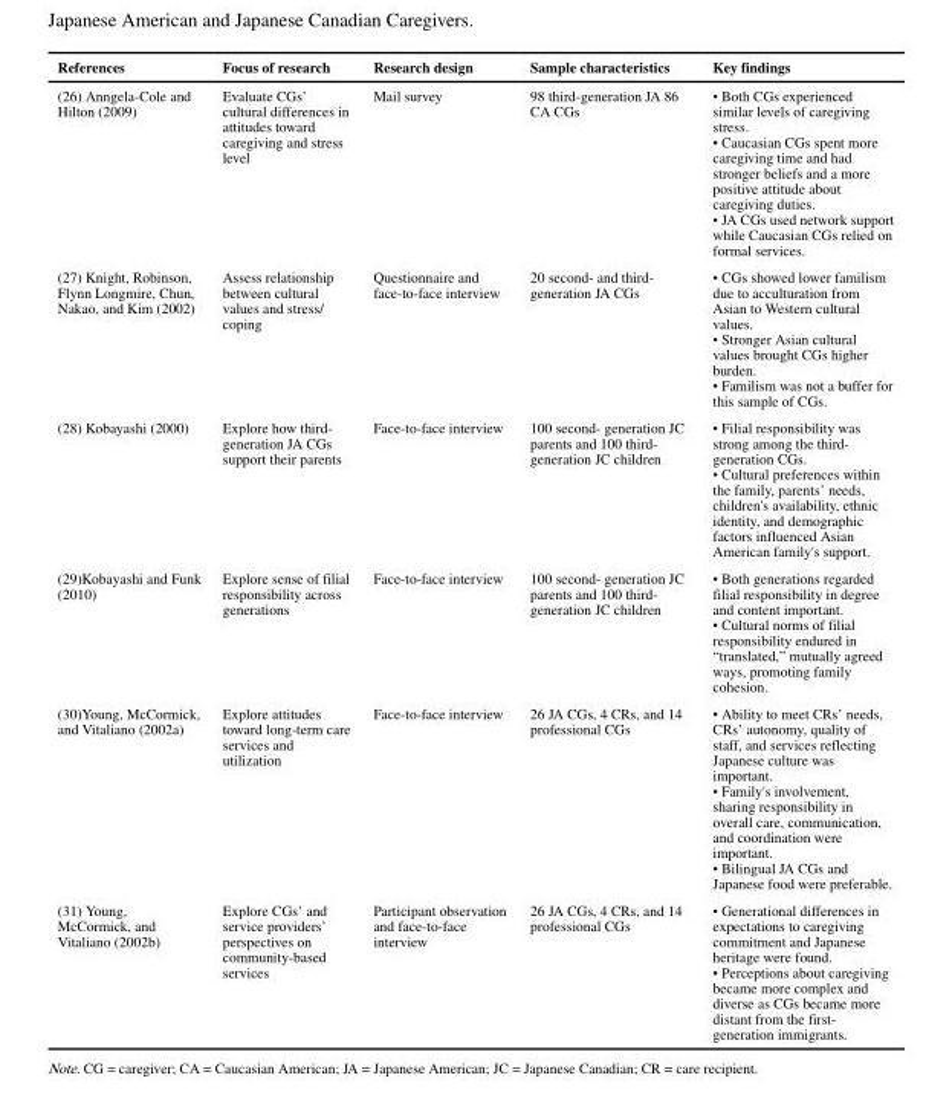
<table><thead><tr><td>References</td><td>Focus of research</td><td>Research design</td><td>Sample characteristics</td><td>Key findings</td></tr></thead><tbody><tr><td>(26) Anngela-Cole and Hilton (2009)</td><td>Evaluate CGs’ cultural differences in attitudes toward caregiving and stress level</td><td>Mail survey</td><td>98 third-generation JA 86 CA CGs</td><td>• Both CGs experienced similar levels of caregiving stress. • Caucasian CGs spent more caregiving time and had stronger beliefs and a more positive attitude about caregiving duties. • JA CGs used network support while Caucasian CGs relied on formal services.</td></tr><tr><td>(27) Knight, Robinson, Flynn Longmire, Chun, Nakao, and Kim (2002)</td><td>Assess relationship between cultural values and stress/ coping</td><td>Questionnaire and face-to-face interview</td><td>20 second- and third- generation JA CGs</td><td>• CGs showed lower familism due to acculturation from Asian to Western cultural values. • Stronger Asian cultural values brought CGs higher burden. • Familism was not a buffer for this sample of CGs.</td></tr><tr><td>(28) Kobayashi (2000)</td><td>Explore how third- generation JA CGs support their parents</td><td>Face-to-face interview</td><td>100 second- generation JC parents and 100 third- generation JC children</td><td>• Filial responsibility was strong among the third- generation CGs. • Cultural preferences within the family, parents’ needs, children&#x27;s availability, ethnic identity, and demographic factors influenced Asian American family&#x27;s support.</td></tr><tr><td>(29)Kobayashi and Funk (2010)</td><td>Explore sense of filial responsibility across generations</td><td>Face-to-face interview</td><td>100 second- generation JC parents and 100 third- generation JC children</td><td>• Both generations regarded filial responsibility in degree and content important. • Cultural norms of filial responsibility endured in “translated,” mutually agreed ways, promoting family cohesion.</td></tr><tr><td>(30)Young, McCormick, and Vitaliano (2002a)</td><td>Explore attitudes toward long-term care services and utilization</td><td>Face-to-face interview</td><td>26 JA CGs, 4 CRs, and 14 professional CGs</td><td>• Ability to meet CRs’ needs, CRs’ autonomy, quality of staff, and services reflecting Japanese culture was important. • Family&#x27;s involvement, sharing responsibility in overall care, communication, and coordination were important. • Bilingual JA CGs and Japanese food were preferable.</td></tr><tr><td>(31) Young, McCormick, and Vitaliano (2002b)</td><td>Explore CGs’ and service providers’ perspectives on community-based services</td><td>Participant observation and face-to-face interview</td><td>26 JA CGs, 4 CRs, and 14 professional CGs</td><td>• Generational differences in expectations to caregiving commitment and Japanese heritage were found. • Perceptions about caregiving became more complex and diverse as CGs became more distant from the first- generation immigrants.</td></tr></tbody></table>